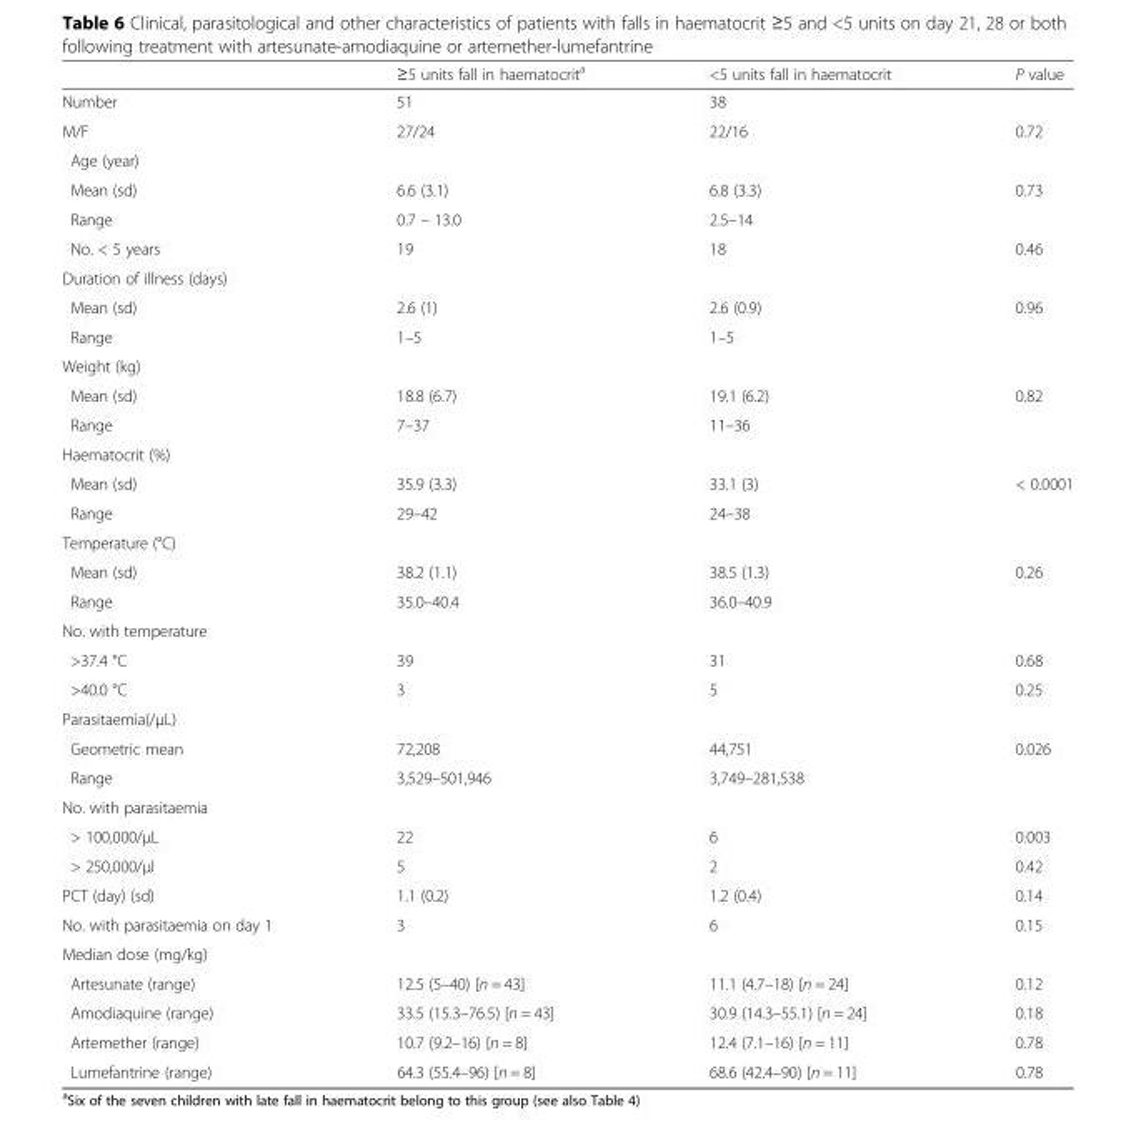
<table><thead><tr><td></td><td>≥5 units fall in haematocrit<sup>a</sup></td><td>&lt;5 units fall in haematocrit</td><td>P value</td></tr></thead><tbody><tr><td>Number</td><td>51</td><td>38</td><td></td></tr><tr><td>M/F</td><td>27/24</td><td>22/16</td><td>0.72</td></tr><tr><td colspan="4">Age (year)</td></tr><tr><td>Mean (sd)</td><td>6.6 (3.1)</td><td>6.8 (3.3)</td><td>0.73</td></tr><tr><td>Range</td><td>0.7 – 13.0</td><td>2.5–14</td><td></td></tr><tr><td>No. &lt; 5 years</td><td>19</td><td>18</td><td>0.46</td></tr><tr><td colspan="4">Duration of illness (days)</td></tr><tr><td>Mean (sd)</td><td>2.6 (1)</td><td>2.6 (0.9)</td><td>0.96</td></tr><tr><td>Range</td><td>1–5</td><td>1–5</td><td></td></tr><tr><td colspan="4">Weight (kg)</td></tr><tr><td>Mean (sd)</td><td>18.8 (6.7)</td><td>19.1 (6.2)</td><td>0.82</td></tr><tr><td>Range</td><td>7–37</td><td>11–36</td><td></td></tr><tr><td colspan="4">Haematocrit (%)</td></tr><tr><td>Mean (sd)</td><td>35.9 (3.3)</td><td>33.1 (3)</td><td>&lt; 0.0001</td></tr><tr><td>Range</td><td>29–42</td><td>24–38</td><td></td></tr><tr><td colspan="4">Temperature (°C)</td></tr><tr><td>Mean (sd)</td><td>38.2 (1.1)</td><td>38.5 (1.3)</td><td>0.26</td></tr><tr><td>Range</td><td>35.0–40.4</td><td>36.0–40.9</td><td></td></tr><tr><td colspan="4">No. with temperature</td></tr><tr><td>&gt;37.4 °C</td><td>39</td><td>31</td><td>0.68</td></tr><tr><td>&gt;40.0 °C</td><td>3</td><td>5</td><td>0.25</td></tr><tr><td colspan="4">Parasitaemia(/μL)</td></tr><tr><td>Geometric mean</td><td>72,208</td><td>44,751</td><td>0.026</td></tr><tr><td>Range</td><td>3,529–501,946</td><td>3,749–281,538</td><td></td></tr><tr><td colspan="4">No. with parasitaemia</td></tr><tr><td>&gt; 100,000/μL</td><td>22</td><td>6</td><td>0.003</td></tr><tr><td>&gt; 250,000/μl</td><td>5</td><td>2</td><td>0.42</td></tr><tr><td>PCT (day) (sd)</td><td>1.1 (0.2)</td><td>1.2 (0.4)</td><td>0.14</td></tr><tr><td>No. with parasitaemia on day 1</td><td>3</td><td>6</td><td>0.15</td></tr><tr><td colspan="4">Median dose (mg/kg)</td></tr><tr><td>Artesunate (range)</td><td>12.5 (5–40) [n = 43]</td><td>11.1 (4.7–18) [n = 24]</td><td>0.12</td></tr><tr><td>Amodiaquine (range)</td><td>33.5 (15.3–76.5) [n = 43]</td><td>30.9 (14.3–55.1) [n = 24]</td><td>0.18</td></tr><tr><td>Artemether (range)</td><td>10.7 (9.2–16) [n = 8]</td><td>12.4 (7.1–16) [n = 11]</td><td>0.78</td></tr><tr><td>Lumefantrine (range)</td><td>64.3 (55.4–96) [n = 8]</td><td>68.6 (42.4–90) [n = 11]</td><td>0.78</td></tr></tbody></table>